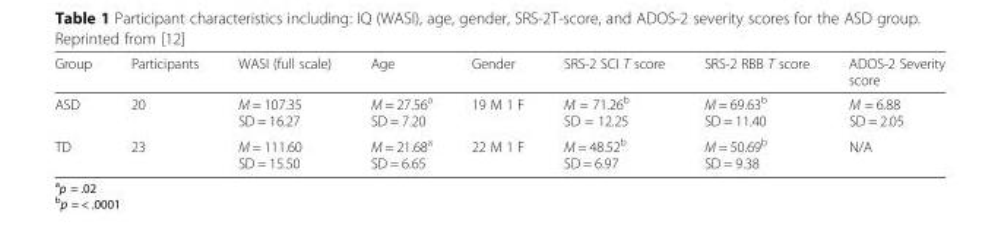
<table><thead><tr><td>Group</td><td>Participants</td><td>WASI (full scale)</td><td>Age</td><td>Gender</td><td>SRS-2 SCI T score</td><td>SRS-2 RBB T score</td><td>ADOS-2 Severity score</td></tr></thead><tbody><tr><td>ASD</td><td>20</td><td>M = 107.35 SD = 16.27</td><td>M = 27.56<sup>a</sup> SD = 7.20</td><td>19 M 1 F</td><td>M = 71.26<sup>b</sup> SD = 12.25</td><td>M = 69.63<sup>b</sup> SD = 11.40</td><td>M = 6.88 SD = 2.05</td></tr><tr><td>TD</td><td>23</td><td>M = 111.60 SD = 15.50</td><td>M = 21.68<sup>a</sup> SD = 6.65</td><td>22 M 1 F</td><td>M = 48.52<sup>b</sup> SD = 6.97</td><td>M = 50.69<sup>b</sup> SD = 9.38</td><td>N/A</td></tr></tbody></table>